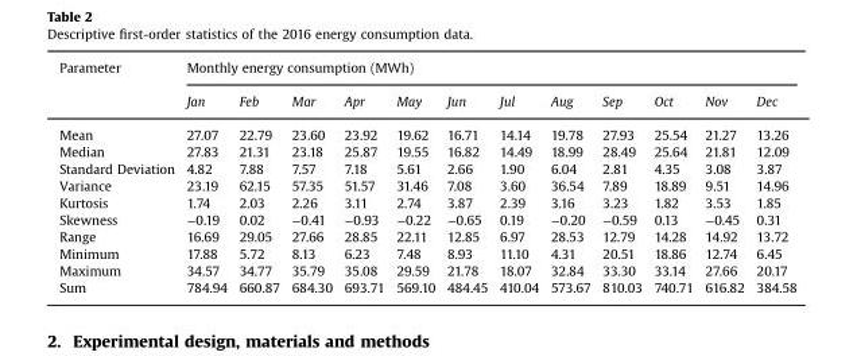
<table><thead><tr><td rowspan="2">Parameter</td><td colspan="12">Monthly energy consumption (MWh)</td></tr><tr><td>Jan</td><td>Feb</td><td>Mar</td><td>Apr</td><td>May</td><td>Jun</td><td>Jul</td><td>Aug</td><td>Sep</td><td>Oct</td><td>Nov</td><td>Dec</td></tr></thead><tbody><tr><td>Mean</td><td>27.07</td><td>22.79</td><td>23.60</td><td>23.92</td><td>19.62</td><td>16.71</td><td>14.14</td><td>19.78</td><td>27.93</td><td>25.54</td><td>21.27</td><td>13.26</td></tr><tr><td>Median</td><td>27.83</td><td>21.31</td><td>23.18</td><td>25.87</td><td>19.55</td><td>16.82</td><td>14.49</td><td>18.99</td><td>28.49</td><td>25.64</td><td>21.81</td><td>12.09</td></tr><tr><td>Standard Deviation</td><td>4.82</td><td>7.88</td><td>7.57</td><td>7.18</td><td>5.61</td><td>2.66</td><td>1.90</td><td>6.04</td><td>2.81</td><td>4.35</td><td>3.08</td><td>3.87</td></tr><tr><td>Variance</td><td>23.19</td><td>62.15</td><td>57.35</td><td>51.57</td><td>31.46</td><td>7.08</td><td>3.60</td><td>36.54</td><td>7.89</td><td>18.89</td><td>9.51</td><td>14.96</td></tr><tr><td>Kurtosis</td><td>1.74</td><td>2.03</td><td>2.26</td><td>3.11</td><td>2.74</td><td>3.87</td><td>2.39</td><td>3.16</td><td>3.23</td><td>1.82</td><td>3.53</td><td>1.85</td></tr><tr><td>Skewness</td><td>−0.19</td><td>0.02</td><td>−0.41</td><td>−0.93</td><td>−0.22</td><td>−0.65</td><td>0.19</td><td>−0.20</td><td>−0.59</td><td>0.13</td><td>−0.45</td><td>0.31</td></tr><tr><td>Range</td><td>16.69</td><td>29.05</td><td>27.66</td><td>28.85</td><td>22.11</td><td>12.85</td><td>6.97</td><td>28.53</td><td>12.79</td><td>14.28</td><td>14.92</td><td>13.72</td></tr><tr><td>Minimum</td><td>17.88</td><td>5.72</td><td>8.13</td><td>6.23</td><td>7.48</td><td>8.93</td><td>11.10</td><td>4.31</td><td>20.51</td><td>18.86</td><td>12.74</td><td>6.45</td></tr><tr><td>Maximum</td><td>34.57</td><td>34.77</td><td>35.79</td><td>35.08</td><td>29.59</td><td>21.78</td><td>18.07</td><td>32.84</td><td>33.30</td><td>33.14</td><td>27.66</td><td>20.17</td></tr><tr><td>Sum</td><td>784.94</td><td>660.87</td><td>684.30</td><td>693.71</td><td>569.10</td><td>484.45</td><td>410.04</td><td>573.67</td><td>810.03</td><td>740.71</td><td>616.82</td><td>384.58</td></tr></tbody></table>